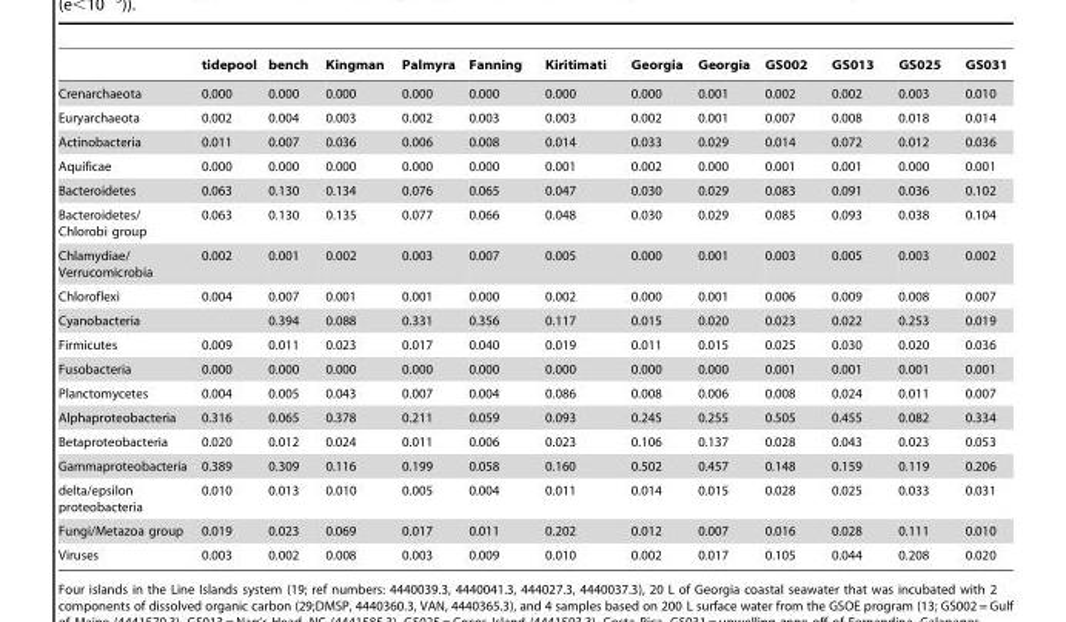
<table><thead><tr><td></td><td>tidepool</td><td>bench</td><td>Kingman</td><td>Palmyra</td><td>Fanning</td><td>Kiritimati</td><td>Georgia</td><td>Georgia</td><td>GS002</td><td>GS013</td><td>GS025</td><td>GS031</td></tr></thead><tbody><tr><td>Crenarchaeota</td><td>0.000</td><td>0.000</td><td>0.000</td><td>0.000</td><td>0.000</td><td>0.000</td><td>0.000</td><td>0.001</td><td>0.002</td><td>0.002</td><td>0.003</td><td>0.010</td></tr><tr><td>Euryarchaeota</td><td>0.002</td><td>0.004</td><td>0.003</td><td>0.002</td><td>0.003</td><td>0.003</td><td>0.002</td><td>0.001</td><td>0.007</td><td>0.008</td><td>0.018</td><td>0.014</td></tr><tr><td>Actinobacteria</td><td>0.011</td><td>0.007</td><td>0.036</td><td>0.006</td><td>0.008</td><td>0.014</td><td>0.033</td><td>0.029</td><td>0.014</td><td>0.072</td><td>0.012</td><td>0.036</td></tr><tr><td>Aquificae</td><td>0.000</td><td>0.000</td><td>0.000</td><td>0.000</td><td>0.000</td><td>0.001</td><td>0.002</td><td>0.000</td><td>0.001</td><td>0.001</td><td>0.000</td><td>0.001</td></tr><tr><td>Bacteroidetes</td><td>0.063</td><td>0.130</td><td>0.134</td><td>0.076</td><td>0.065</td><td>0.047</td><td>0.030</td><td>0.029</td><td>0.083</td><td>0.091</td><td>0.036</td><td>0.102</td></tr><tr><td>Bacteroidetes/ Chlorobi group</td><td>0.063</td><td>0.130</td><td>0.135</td><td>0.077</td><td>0.066</td><td>0.048</td><td>0.030</td><td>0.029</td><td>0.085</td><td>0.093</td><td>0.038</td><td>0.104</td></tr><tr><td>Chlamydiae/ Verrucomicrobia</td><td>0.002</td><td>0.001</td><td>0.002</td><td>0.003</td><td>0.007</td><td>0.005</td><td>0.000</td><td>0.001</td><td>0.003</td><td>0.005</td><td>0.003</td><td>0.002</td></tr><tr><td>Chloroflexi</td><td>0.004</td><td>0.007</td><td>0.001</td><td>0.001</td><td>0.000</td><td>0.002</td><td>0.000</td><td>0.001</td><td>0.006</td><td>0.009</td><td>0.008</td><td>0.007</td></tr><tr><td>Cyanobacteria</td><td></td><td>0.394</td><td>0.088</td><td>0.331</td><td>0.356</td><td>0.117</td><td>0.015</td><td>0.020</td><td>0.023</td><td>0.022</td><td>0.253</td><td>0.019</td></tr><tr><td>Firmicutes</td><td>0.009</td><td>0.011</td><td>0.023</td><td>0.017</td><td>0.040</td><td>0.019</td><td>0.011</td><td>0.015</td><td>0.025</td><td>0.030</td><td>0.020</td><td>0.036</td></tr><tr><td>Fusobacteria</td><td>0.000</td><td>0.000</td><td>0.000</td><td>0.000</td><td>0.000</td><td>0.000</td><td>0.000</td><td>0.000</td><td>0.001</td><td>0.001</td><td>0.001</td><td>0.001</td></tr><tr><td>Planctomycetes</td><td>0.004</td><td>0.005</td><td>0.043</td><td>0.007</td><td>0.004</td><td>0.086</td><td>0.008</td><td>0.006</td><td>0.008</td><td>0.024</td><td>0.011</td><td>0.007</td></tr><tr><td>Alphaproteobacteria</td><td>0.316</td><td>0.065</td><td>0.378</td><td>0.211</td><td>0.059</td><td>0.093</td><td>0.245</td><td>0.255</td><td>0.505</td><td>0.455</td><td>0.082</td><td>0.334</td></tr><tr><td>Betaproteobacteria</td><td>0.020</td><td>0.012</td><td>0.024</td><td>0.011</td><td>0.006</td><td>0.023</td><td>0.106</td><td>0.137</td><td>0.028</td><td>0.043</td><td>0.023</td><td>0.053</td></tr><tr><td>Gammaproteobacteria</td><td>0.389</td><td>0.309</td><td>0.116</td><td>0.199</td><td>0.058</td><td>0.160</td><td>0.502</td><td>0.457</td><td>0.148</td><td>0.159</td><td>0.119</td><td>0.206</td></tr><tr><td>delta/epsilon proteobacteria</td><td>0.010</td><td>0.013</td><td>0.010</td><td>0.005</td><td>0.004</td><td>0.011</td><td>0.014</td><td>0.015</td><td>0.028</td><td>0.025</td><td>0.033</td><td>0.031</td></tr><tr><td>Fungi/Metazoa group</td><td>0.019</td><td>0.023</td><td>0.069</td><td>0.017</td><td>0.011</td><td>0.202</td><td>0.012</td><td>0.007</td><td>0.016</td><td>0.028</td><td>0.111</td><td>0.010</td></tr><tr><td>Viruses</td><td>0.003</td><td>0.002</td><td>0.008</td><td>0.003</td><td>0.009</td><td>0.010</td><td>0.002</td><td>0.017</td><td>0.105</td><td>0.044</td><td>0.208</td><td>0.020</td></tr></tbody></table>